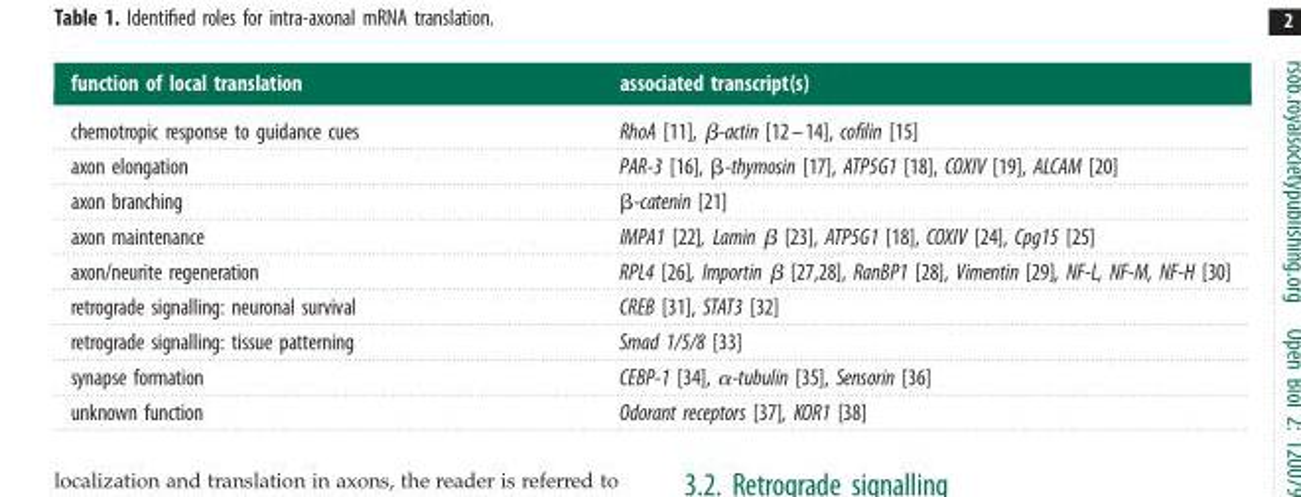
<table><thead><tr><td>function of local translation</td><td>associated transcript(s)</td></tr></thead><tbody><tr><td>chemotropic response to guidance cues</td><td>RhoA [11], β-actin [12–14], cofilin [15]</td></tr><tr><td>axon elongation</td><td>PAR-3 [16], β-thymosin [17], ATP5G1 [18], COXIV [19], ALCAM [20]</td></tr><tr><td>axon branching</td><td>β-catenin [21]</td></tr><tr><td>axon maintenance</td><td>IMPA1 [22], Lamin β [23], ATP5G1 [18], COXIV [24], Cpg15 [25]</td></tr><tr><td>axon/neurite regeneration</td><td>RPL4 [26], Importin β [27,28], RanBP1 [28], Vimentin [29], NF-L, NF-M, NF-H [30]</td></tr><tr><td>retrograde signalling: neuronal survival</td><td>CREB [31], STAT3 [32]</td></tr><tr><td>retrograde signalling: tissue patterning</td><td>Smad 1/5/8 [33]</td></tr><tr><td>synapse formation</td><td>CEBP-1 [34], α-tubulin [35], Sensorin [36]</td></tr><tr><td>unknown function</td><td>Odorant receptors [37], KOR1 [38]</td></tr></tbody></table>